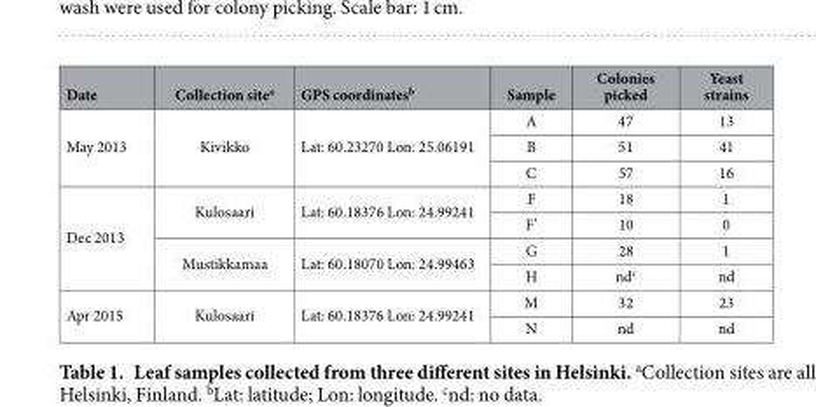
<table><thead><tr><td>Date</td><td>Collection site<sup>a</sup></td><td>GPS coordinates<sup>b</sup></td><td>Sample</td><td>Colonies picked</td><td>Yeast strains</td></tr></thead><tbody><tr><td rowspan="3">May 2013</td><td rowspan="3">Kivikko</td><td rowspan="3">Lat: 60.23270 Lon: 25.06191</td><td>A</td><td>47</td><td>13</td></tr><tr><td>B</td><td>51</td><td>41</td></tr><tr><td>C</td><td>57</td><td>16</td></tr><tr><td rowspan="4">Dec 2013</td><td rowspan="2">Kulosaari</td><td rowspan="2">Lat: 60.18376 Lon: 24.99241</td><td>F</td><td>18</td><td>1</td></tr><tr><td>F’</td><td>10</td><td>0</td></tr><tr><td rowspan="2">Mustikkamaa</td><td rowspan="2">Lat: 60.18070 Lon: 24.99463</td><td>G</td><td>28</td><td>1</td></tr><tr><td>H</td><td>nd<sup>c</sup></td><td>nd</td></tr><tr><td rowspan="2">Apr 2015</td><td rowspan="2">Kulosaari</td><td rowspan="2">Lat: 60.18376 Lon: 24.99241</td><td>M</td><td>32</td><td>23</td></tr><tr><td>N</td><td>nd</td><td>nd</td></tr></tbody></table>